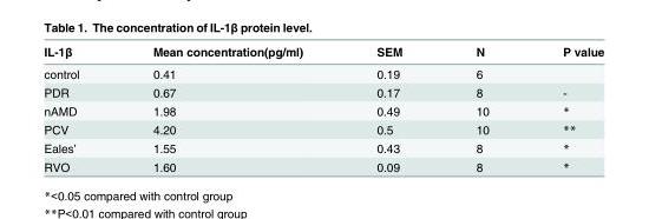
<table><thead><tr><td>IL-1β</td><td>Mean concentration(pg/ml)</td><td>SEM</td><td>N</td><td>P value</td></tr></thead><tbody><tr><td>control</td><td>0.41</td><td>0.19</td><td>6</td><td></td></tr><tr><td>PDR</td><td>0.67</td><td>0.17</td><td>8</td><td>-</td></tr><tr><td>nAMD</td><td>1.98</td><td>0.49</td><td>10</td><td>*</td></tr><tr><td>PCV</td><td>4.20</td><td>0.5</td><td>10</td><td>**</td></tr><tr><td>Eales’</td><td>1.55</td><td>0.43</td><td>8</td><td>*</td></tr><tr><td>RVO</td><td>1.60</td><td>0.09</td><td>8</td><td>*</td></tr></tbody></table>